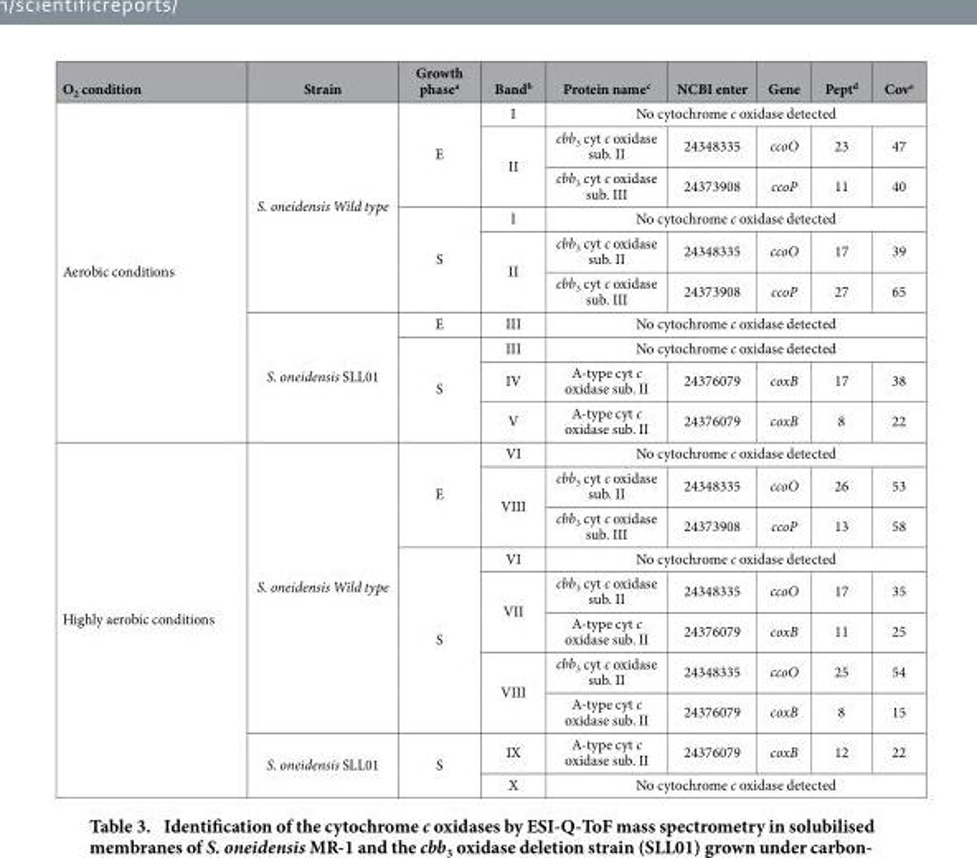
<table><thead><tr><td>O<sub>2</sub> condition</td><td>Strain</td><td>Growth phase<sup>a</sup></td><td>Band<sup>b</sup></td><td>Protein name<sup>c</sup></td><td>NCBI enter</td><td>Gene</td><td>Pept<sup>d</sup></td><td>Cov<sup>e</sup></td></tr></thead><tbody><tr><td rowspan="10">Aerobic conditions</td><td rowspan="6">S. oneidensis Wild type</td><td rowspan="3">E</td><td>I</td><td colspan="5">No cytochrome c oxidase detected</td></tr><tr><td rowspan="2">II</td><td>cbb<sub>3</sub> cyt c oxidase sub. II</td><td>24348335</td><td>ccoO</td><td>23</td><td>47</td></tr><tr><td>cbb<sub>3</sub> cyt c oxidase sub. III</td><td>24373908</td><td>ccoP</td><td>11</td><td>40</td></tr><tr><td rowspan="3">S</td><td>I</td><td colspan="5">No cytochrome c oxidase detected</td></tr><tr><td rowspan="2">II</td><td>cbb<sub>3</sub> cyt c oxidase sub. II</td><td>24348335</td><td>ccoO</td><td>17</td><td>39</td></tr><tr><td>cbb<sub>3</sub> cyt c oxidase sub. III</td><td>24373908</td><td>ccoP</td><td>27</td><td>65</td></tr><tr><td rowspan="4">S. oneidensis SLL01</td><td>E</td><td>III</td><td colspan="5">No cytochrome c oxidase detected</td></tr><tr><td rowspan="3">S</td><td>III</td><td colspan="5">No cytochrome c oxidase detected</td></tr><tr><td>IV</td><td>A-type cyt c oxidase sub. II</td><td>24376079</td><td>coxB</td><td>17</td><td>38</td></tr><tr><td>V</td><td>A-type cyt c oxidase sub. II</td><td>24376079</td><td>coxB</td><td>8</td><td>22</td></tr><tr><td rowspan="10">Highly aerobic conditions</td><td rowspan="8">S. oneidensis Wild type</td><td rowspan="3">E</td><td>VI</td><td colspan="5">No cytochrome c oxidase detected</td></tr><tr><td rowspan="2">VIII</td><td>cbb<sub>3</sub> cyt c oxidase sub. II</td><td>24348335</td><td>ccoO</td><td>26</td><td>53</td></tr><tr><td>cbb<sub>3</sub> cyt c oxidase sub. III</td><td>24373908</td><td>ccoP</td><td>13</td><td>58</td></tr><tr><td rowspan="5">S</td><td>VI</td><td colspan="5">No cytochrome c oxidase detected</td></tr><tr><td rowspan="2">VII</td><td>cbb<sub>3</sub> cyt c oxidase sub. II</td><td>24348335</td><td>ccoO</td><td>17</td><td>35</td></tr><tr><td>A-type cyt c oxidase sub. II</td><td>24376079</td><td>coxB</td><td>11</td><td>25</td></tr><tr><td rowspan="2">VIII</td><td>cbb<sub>3</sub> cyt c oxidase sub. II</td><td>24348335</td><td>ccoO</td><td>25</td><td>54</td></tr><tr><td>A-type cyt c oxidase sub. II</td><td>24376079</td><td>coxB</td><td>8</td><td>15</td></tr><tr><td rowspan="2">S. oneidensis SLL01</td><td rowspan="2">S</td><td>IX</td><td>A-type cyt c oxidase sub. II</td><td>24376079</td><td>coxB</td><td>12</td><td>22</td></tr><tr><td>X</td><td colspan="5">No cytochrome c oxidase detected</td></tr></tbody></table>